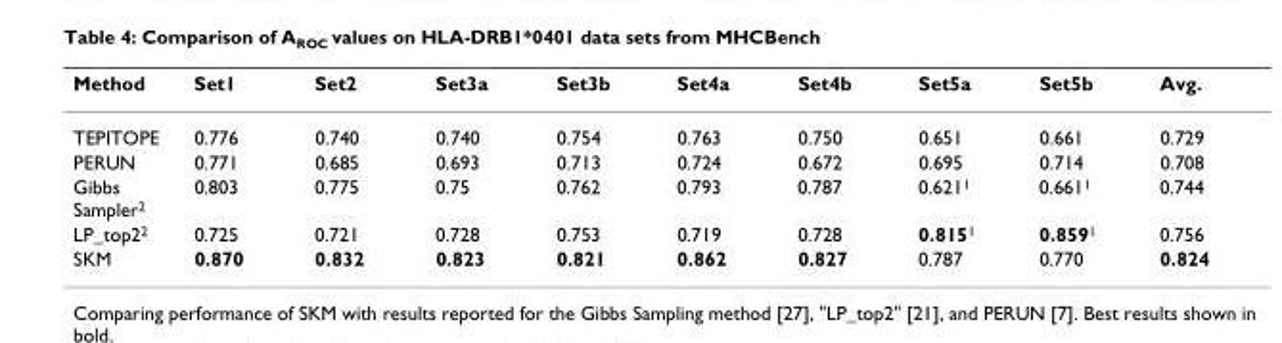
<table><thead><tr><td>Method</td><td>Set1</td><td>Set2</td><td>Set3a</td><td>Set3b</td><td>Set4a</td><td>Set4b</td><td>Set5a</td><td>Set5b</td><td>Avg.</td></tr></thead><tbody><tr><td>TEPITOPE</td><td>0.776</td><td>0.740</td><td>0.740</td><td>0.754</td><td>0.763</td><td>0.750</td><td>0.651</td><td>0.661</td><td>0.729</td></tr><tr><td>PERUN</td><td>0.771</td><td>0.685</td><td>0.693</td><td>0.713</td><td>0.724</td><td>0.672</td><td>0.695</td><td>0.714</td><td>0.708</td></tr><tr><td>Gibbs Sampler<sup>2</sup></td><td>0.803</td><td>0.775</td><td>0.75</td><td>0.762</td><td>0.793</td><td>0.787</td><td>0.621<sup>1</sup></td><td>0.661<sup>1</sup></td><td>0.744</td></tr><tr><td>LP_top2<sup>2</sup></td><td>0.725</td><td>0.721</td><td>0.728</td><td>0.753</td><td>0.719</td><td>0.728</td><td>0.815<sup>1</sup></td><td>0.859<sup>1</sup></td><td>0.756</td></tr><tr><td>SKM</td><td>0.870</td><td>0.832</td><td>0.823</td><td>0.821</td><td>0.862</td><td>0.827</td><td>0.787</td><td>0.770</td><td>0.824</td></tr></tbody></table>